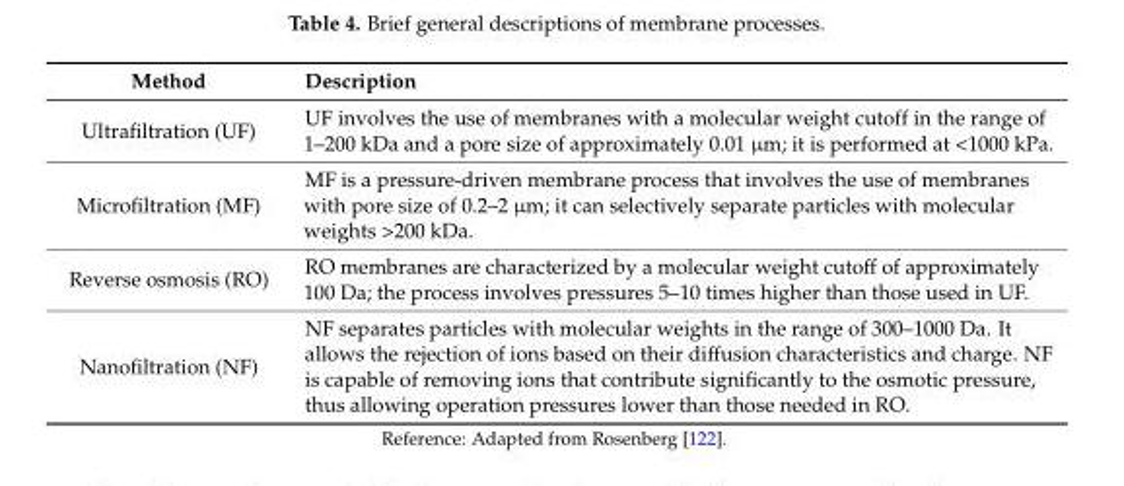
<table><thead><tr><td>Method</td><td>Description</td></tr></thead><tbody><tr><td>Ultrafiltration (UF)</td><td>UF involves the use of membranes with a molecular weight cutoff in the range of 1–200 kDa and a pore size of approximately 0.01 µm; it is performed at &lt;1000 kPa.</td></tr><tr><td>Microfiltration (MF)</td><td>MF is a pressure-driven membrane process that involves the use of membranes with pore size of 0.2–2 µm; it can selectively separate particles with molecular weights &gt;200 kDa.</td></tr><tr><td>Reverse osmosis (RO)</td><td>RO membranes are characterized by a molecular weight cutoff of approximately 100 Da; the process involves pressures 5–10 times higher than those used in UF.</td></tr><tr><td>Nanofiltration (NF)</td><td>NF separates particles with molecular weights in the range of 300–1000 Da. It allows the rejection of ions based on their diffusion characteristics and charge. NF is capable of removing ions that contribute significantly to the osmotic pressure, thus allowing operation pressures lower than those needed in RO.</td></tr></tbody></table>